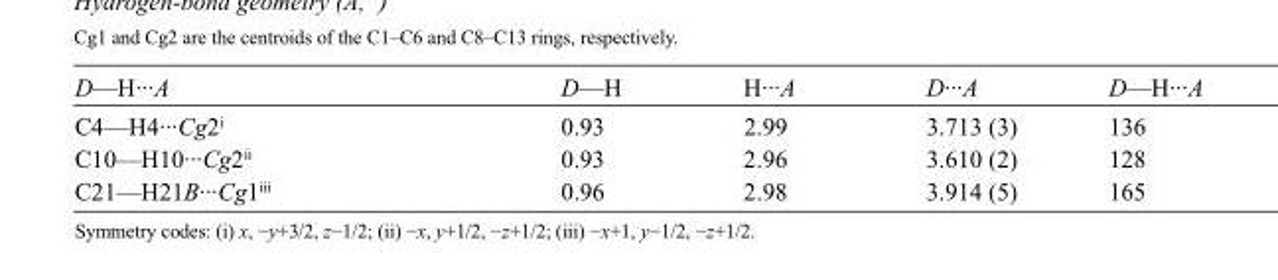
<table><tbody><tr><td>D—H···A</td><td>D—H</td><td>H···A</td><td>D···A</td><td>D—H···A</td></tr><tr><td>C4—H4···Cg2<sup>i</sup></td><td>0.93</td><td>2.99</td><td>3.713 (3)</td><td>136</td></tr><tr><td>C10—H10···Cg2<sup>ii</sup></td><td>0.93</td><td>2.96</td><td>3.610 (2)</td><td>128</td></tr><tr><td>C21—H21B···Cg1<sup>iii</sup></td><td>0.96</td><td>2.98</td><td>3.914 (5)</td><td>165</td></tr></tbody></table>